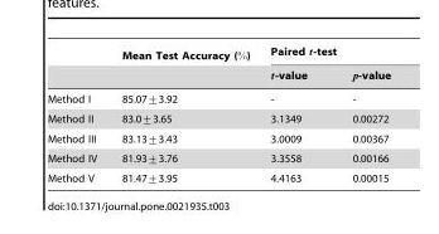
<table><thead><tr><td rowspan="2"></td><td rowspan="2">Mean Test Accuracy (%)</td><td colspan="2">Paired t-test</td></tr><tr><td>t-value</td><td>p-value</td></tr></thead><tbody><tr><td>Method I</td><td>85.07+3.92</td><td>-</td><td>-</td></tr><tr><td>Method II</td><td>83.0+3.65</td><td>3.1349</td><td>0.00272</td></tr><tr><td>Method III</td><td>83.13+3.43</td><td>3.0009</td><td>0.00367</td></tr><tr><td>Method IV</td><td>81.93+3.76</td><td>3.3558</td><td>0.00166</td></tr><tr><td>Method V</td><td>81.47+3.95</td><td>4.4163</td><td>0.00015</td></tr></tbody></table>